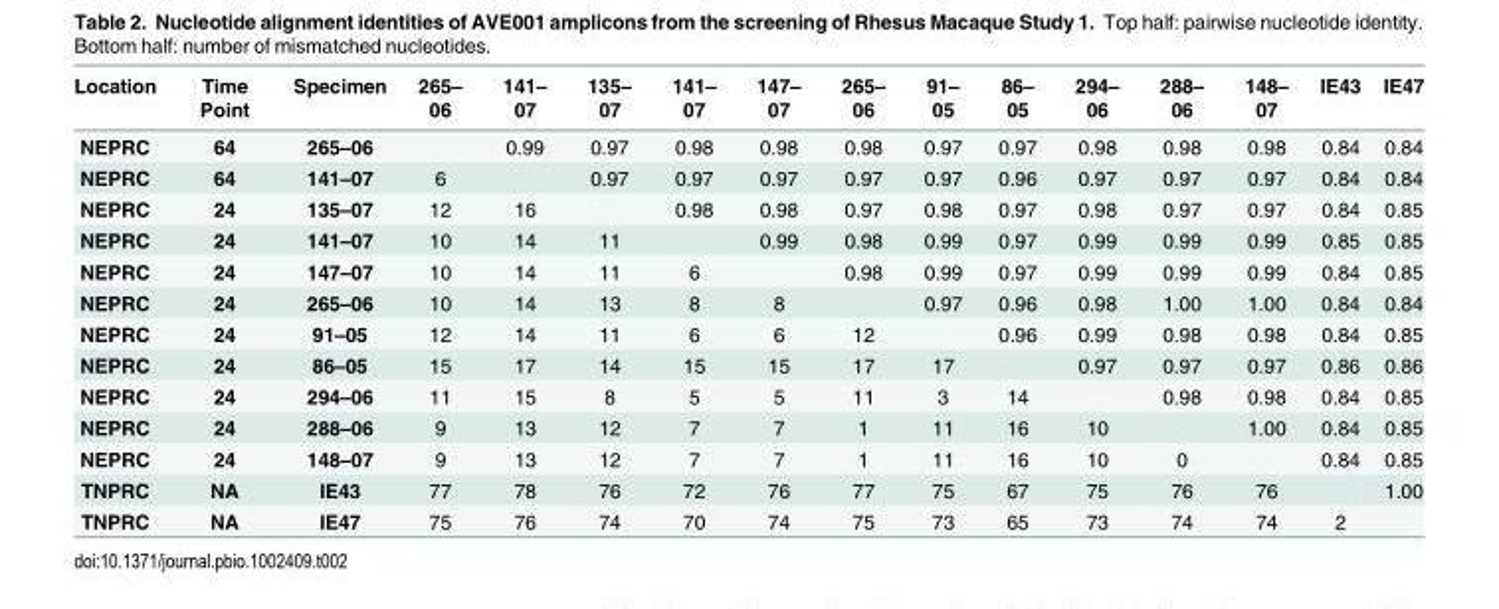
<table><thead><tr><td>Location</td><td>Time Point</td><td>Specimen</td><td>265– 06</td><td>141– 07</td><td>135– 07</td><td>141– 07</td><td>147– 07</td><td>265– 06</td><td>91– 05</td><td>86– 05</td><td>294– 06</td><td>288– 06</td><td>148– 07</td><td>IE43</td><td>IE47</td></tr></thead><tbody><tr><td>NEPRC</td><td>64</td><td>265–06</td><td></td><td>0.99</td><td>0.97</td><td>0.98</td><td>0.98</td><td>0.98</td><td>0.97</td><td>0.97</td><td>0.98</td><td>0.98</td><td>0.98</td><td>0.84</td><td>0.84</td></tr><tr><td>NEPRC</td><td>64</td><td>141–07</td><td>6</td><td></td><td>0.97</td><td>0.97</td><td>0.97</td><td>0.97</td><td>0.97</td><td>0.96</td><td>0.97</td><td>0.97</td><td>0.97</td><td>0.84</td><td>0.84</td></tr><tr><td>NEPRC</td><td>24</td><td>135–07</td><td>12</td><td>16</td><td></td><td>0.98</td><td>0.98</td><td>0.97</td><td>0.98</td><td>0.97</td><td>0.98</td><td>0.97</td><td>0.97</td><td>0.84</td><td>0.85</td></tr><tr><td>NEPRC</td><td>24</td><td>141–07</td><td>10</td><td>14</td><td>11</td><td></td><td>0.99</td><td>0.98</td><td>0.99</td><td>0.97</td><td>0.99</td><td>0.99</td><td>0.99</td><td>0.85</td><td>0.85</td></tr><tr><td>NEPRC</td><td>24</td><td>147–07</td><td>10</td><td>14</td><td>11</td><td>6</td><td></td><td>0.98</td><td>0.99</td><td>0.97</td><td>0.99</td><td>0.99</td><td>0.99</td><td>0.84</td><td>0.85</td></tr><tr><td>NEPRC</td><td>24</td><td>265–06</td><td>10</td><td>14</td><td>13</td><td>8</td><td>8</td><td></td><td>0.97</td><td>0.96</td><td>0.98</td><td>1.00</td><td>1.00</td><td>0.84</td><td>0.84</td></tr><tr><td>NEPRC</td><td>24</td><td>91–05</td><td>12</td><td>14</td><td>11</td><td>6</td><td>6</td><td>12</td><td></td><td>0.96</td><td>0.99</td><td>0.98</td><td>0.98</td><td>0.84</td><td>0.85</td></tr><tr><td>NEPRC</td><td>24</td><td>86–05</td><td>15</td><td>17</td><td>14</td><td>15</td><td>15</td><td>17</td><td>17</td><td></td><td>0.97</td><td>0.97</td><td>0.97</td><td>0.86</td><td>0.86</td></tr><tr><td>NEPRC</td><td>24</td><td>294–06</td><td>11</td><td>15</td><td>8</td><td>5</td><td>5</td><td>11</td><td>3</td><td>14</td><td></td><td>0.98</td><td>0.98</td><td>0.84</td><td>0.85</td></tr><tr><td>NEPRC</td><td>24</td><td>288–06</td><td>9</td><td>13</td><td>12</td><td>7</td><td>7</td><td>1</td><td>11</td><td>16</td><td>10</td><td></td><td>1.00</td><td>0.84</td><td>0.85</td></tr><tr><td>NEPRC</td><td>24</td><td>148–07</td><td>9</td><td>13</td><td>12</td><td>7</td><td>7</td><td>1</td><td>11</td><td>16</td><td>10</td><td>0</td><td></td><td>0.84</td><td>0.85</td></tr><tr><td>TNPRC</td><td>NA</td><td>IE43</td><td>77</td><td>78</td><td>76</td><td>72</td><td>76</td><td>77</td><td>75</td><td>67</td><td>75</td><td>76</td><td>76</td><td></td><td>1.00</td></tr><tr><td>TNPRC</td><td>NA</td><td>IE47</td><td>75</td><td>76</td><td>74</td><td>70</td><td>74</td><td>75</td><td>73</td><td>65</td><td>73</td><td>74</td><td>74</td><td>2</td><td></td></tr></tbody></table>